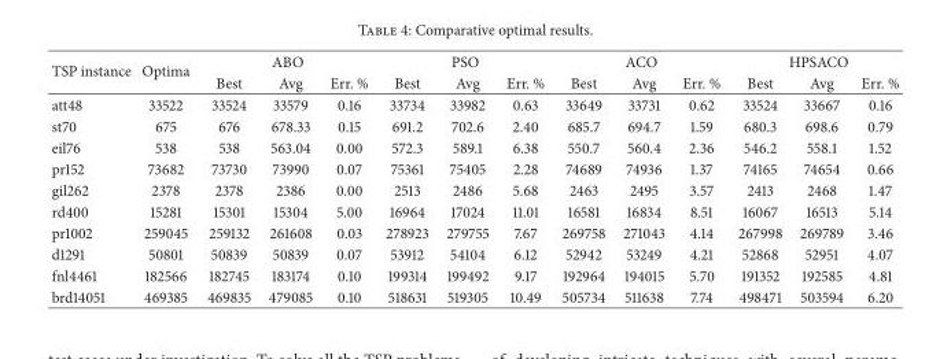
<table><thead><tr><td rowspan="2">TSP instance</td><td rowspan="2">Optima</td><td colspan="3">ABO</td><td colspan="3">PSO</td><td colspan="3">ACO</td><td colspan="3">HPSACO</td></tr><tr><td>Best</td><td>Avg</td><td>Err. %</td><td>Best</td><td>Avg</td><td>Err. %</td><td>Best</td><td>Avg</td><td>Err. %</td><td>Best</td><td>Avg</td><td>Err. %</td></tr></thead><tbody><tr><td>att48</td><td>33522</td><td>33524</td><td>33579</td><td>0.16</td><td>33734</td><td>33982</td><td>0.63</td><td>33649</td><td>33731</td><td>0.62</td><td>33524</td><td>33667</td><td>0.16</td></tr><tr><td>st70</td><td>675</td><td>676</td><td>678.33</td><td>0.15</td><td>691.2</td><td>702.6</td><td>2.40</td><td>685.7</td><td>694.7</td><td>1.59</td><td>680.3</td><td>698.6</td><td>0.79</td></tr><tr><td>eil76</td><td>538</td><td>538</td><td>563.04</td><td>0.00</td><td>572.3</td><td>589.1</td><td>6.38</td><td>550.7</td><td>560.4</td><td>2.36</td><td>546.2</td><td>558.1</td><td>1.52</td></tr><tr><td>pr152</td><td>73682</td><td>73730</td><td>73990</td><td>0.07</td><td>75361</td><td>75405</td><td>2.28</td><td>74689</td><td>74936</td><td>1.37</td><td>74165</td><td>74654</td><td>0.66</td></tr><tr><td>gil262</td><td>2378</td><td>2378</td><td>2386</td><td>0.00</td><td>2513</td><td>2486</td><td>5.68</td><td>2463</td><td>2495</td><td>3.57</td><td>2413</td><td>2468</td><td>1.47</td></tr><tr><td>rd400</td><td>15281</td><td>15301</td><td>15304</td><td>5.00</td><td>16964</td><td>17024</td><td>11.01</td><td>16581</td><td>16834</td><td>8.51</td><td>16067</td><td>16513</td><td>5.14</td></tr><tr><td>pr1002</td><td>259045</td><td>259132</td><td>261608</td><td>0.03</td><td>278923</td><td>279755</td><td>7.67</td><td>269758</td><td>271043</td><td>4.14</td><td>267998</td><td>269789</td><td>3.46</td></tr><tr><td>d1291</td><td>50801</td><td>50839</td><td>50839</td><td>0.07</td><td>53912</td><td>54104</td><td>6.12</td><td>52942</td><td>53249</td><td>4.21</td><td>52868</td><td>52951</td><td>4.07</td></tr><tr><td>fnl4461</td><td>182566</td><td>182745</td><td>183174</td><td>0.10</td><td>199314</td><td>199492</td><td>9.17</td><td>192964</td><td>194015</td><td>5.70</td><td>191352</td><td>192585</td><td>4.81</td></tr><tr><td>brd14051</td><td>469385</td><td>469835</td><td>479085</td><td>0.10</td><td>518631</td><td>519305</td><td>10.49</td><td>505734</td><td>511638</td><td>7.74</td><td>498471</td><td>503594</td><td>6.20</td></tr></tbody></table>